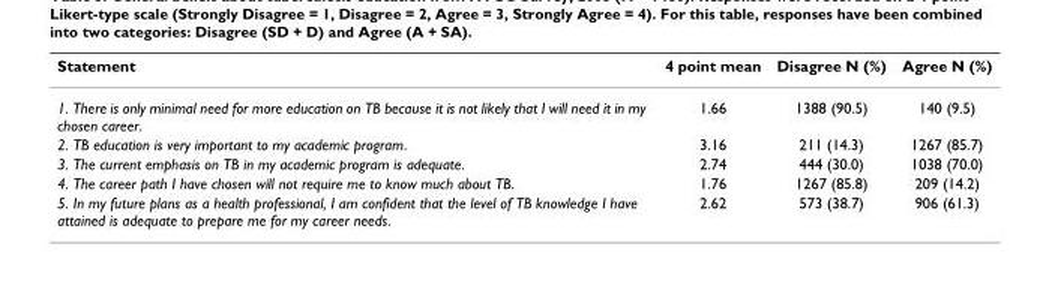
<table><thead><tr><td>Statement</td><td>4 point mean</td><td>Disagree N (%)</td><td>Agree N (%)</td></tr></thead><tbody><tr><td>1. There is only minimal need for more education on TB because it is not likely that I will need it in my chosen career.</td><td>1.66</td><td>1388 (90.5)</td><td>140 (9.5)</td></tr><tr><td>2. TB education is very important to my academic program.</td><td>3.16</td><td>211 (14.3)</td><td>1267 (85.7)</td></tr><tr><td>3. The current emphasis on TB in my academic program is adequate.</td><td>2.74</td><td>444 (30.0)</td><td>1038 (70.0)</td></tr><tr><td>4. The career path I have chosen will not require me to know much about TB.</td><td>1.76</td><td>1267 (85.8)</td><td>209 (14.2)</td></tr><tr><td>5. In my future plans as a health professional, I am confident that the level of TB knowledge I have attained is adequate to prepare me for my career needs.</td><td>2.62</td><td>573 (38.7)</td><td>906 (61.3)</td></tr></tbody></table>